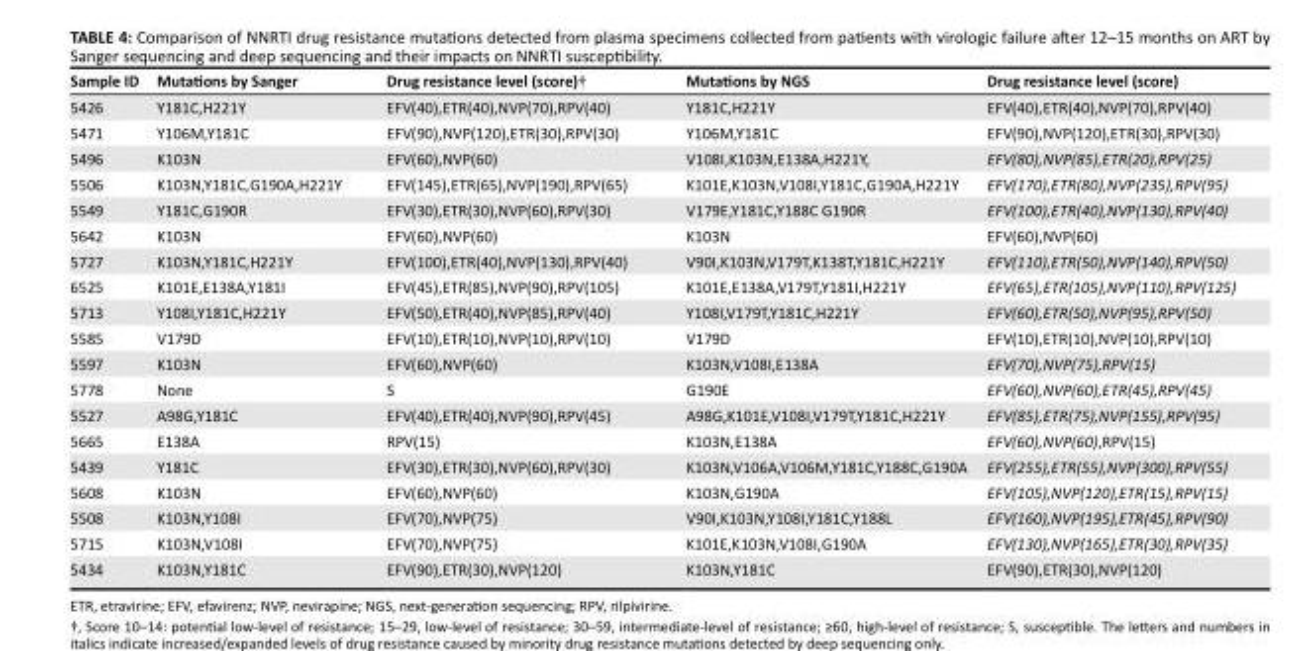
<table><thead><tr><td>Sample ID</td><td>Mutations by Sanger</td><td>Drug resistance level (score)†</td><td>Mutations by NGS</td><td>Drug resistance level (score)</td></tr></thead><tbody><tr><td>5426</td><td>Y181C,H221Y</td><td>EFV(40),ETR(40),NVP(70),RPV(40)</td><td>Y181C,H221Y</td><td>EFV(40),ETR(40),NVP(70),RPV(40)</td></tr><tr><td>5471</td><td>Y106M,Y181C</td><td>EFV(90),NVP(120),ETR(30),RPV(30)</td><td>Y106M,Y181C</td><td>EFV(90),NVP(120),ETR(30),RPV(30)</td></tr><tr><td>5496</td><td>K103N</td><td>EFV(60),NVP(60)</td><td>V108I,K103N,E138A,H221Y,</td><td>EFV(80),NVP(85),ETR(20),RPV(25)</td></tr><tr><td>5506</td><td>K103N,Y181C,G190A,H221Y</td><td>EFV(145),ETR(65),NVP(190),RPV(65)</td><td>K101E,K103N,V108I,Y181C,G190A,H221Y</td><td>EFV(170),ETR(80),NVP(235),RPV(95)</td></tr><tr><td>5549</td><td>Y181C,G190R</td><td>EFV(30),ETR(30),NVP(60),RPV(30)</td><td>V179E,Y181C,Y188C G190R</td><td>EFV(100),ETR(40),NVP(130),RPV(40)</td></tr><tr><td>5642</td><td>K103N</td><td>EFV(60),NVP(60)</td><td>K103N</td><td>EFV(60),NVP(60)</td></tr><tr><td>5727</td><td>K103N,Y181C,H221Y</td><td>EFV(100),ETR(40),NVP(130),RPV(40)</td><td>V90I,K103N,V179T,K138T,Y181C,H221Y</td><td>EFV(110),ETR(50),NVP(140),RPV(50)</td></tr><tr><td>6525</td><td>K101E,E138A,Y181I</td><td>EFV(45),ETR(85),NVP(90),RPV(105)</td><td>K101E,E138A,V179T,Y181I,H221Y</td><td>EFV(65),ETR(105),NVP(110),RPV(125)</td></tr><tr><td>5713</td><td>Y108I,Y181C,H221Y</td><td>EFV(50),ETR(40),NVP(85),RPV(40)</td><td>Y108I,V179T,Y181C,H221Y</td><td>EFV(60),ETR(50),NVP(95),RPV(50)</td></tr><tr><td>5585</td><td>V179D</td><td>EFV(10),ETR(10),NVP(10),RPV(10)</td><td>V179D</td><td>EFV(10),ETR(10),NVP(10),RPV(10)</td></tr><tr><td>5597</td><td>K103N</td><td>EFV(60),NVP(60)</td><td>K103N,V108I,E138A</td><td>EFV(70),NVP(75),RPV(15)</td></tr><tr><td>5778</td><td>None</td><td>S</td><td>G190E</td><td>EFV(60),NVP(60),ETR(45),RPV(45)</td></tr><tr><td>5527</td><td>A98G,Y181C</td><td>EFV(40),ETR(40),NVP(90),RPV(45)</td><td>A98G,K101E,V108I,V179T,Y181C,H221Y</td><td>EFV(85),ETR(75),NVP(155),RPV(95)</td></tr><tr><td>5665</td><td>E138A</td><td>RPV(15)</td><td>K103N,E138A</td><td>EFV(60),NVP(60),RPV(15)</td></tr><tr><td>5439</td><td>Y181C</td><td>EFV(30),ETR(30),NVP(60),RPV(30)</td><td>K103N,V106A,V106M,Y181C,Y188C,G190A</td><td>EFV(255),ETR(55),NVP(300),RPV(55)</td></tr><tr><td>5608</td><td>K103N</td><td>EFV(60),NVP(60)</td><td>K103N,G190A</td><td>EFV(105),NVP(120),ETR(15),RPV(15)</td></tr><tr><td>5508</td><td>K103N,Y108I</td><td>EFV(70),NVP(75)</td><td>V90I,K103N,Y108I,Y181C,Y188L</td><td>EFV(160),NVP(195),ETR(45),RPV(90)</td></tr><tr><td>5715</td><td>K103N,V108I</td><td>EFV(70),NVP(75)</td><td>K101E,K103N,V108I,G190A</td><td>EFV(130),NVP(165),ETR(30),RPV(35)</td></tr><tr><td>5434</td><td>K103N,Y181C</td><td>EFV(90),ETR(30),NVP(120)</td><td>K103N,Y181C</td><td>EFV(90),ETR(30),NVP(120)</td></tr></tbody></table>